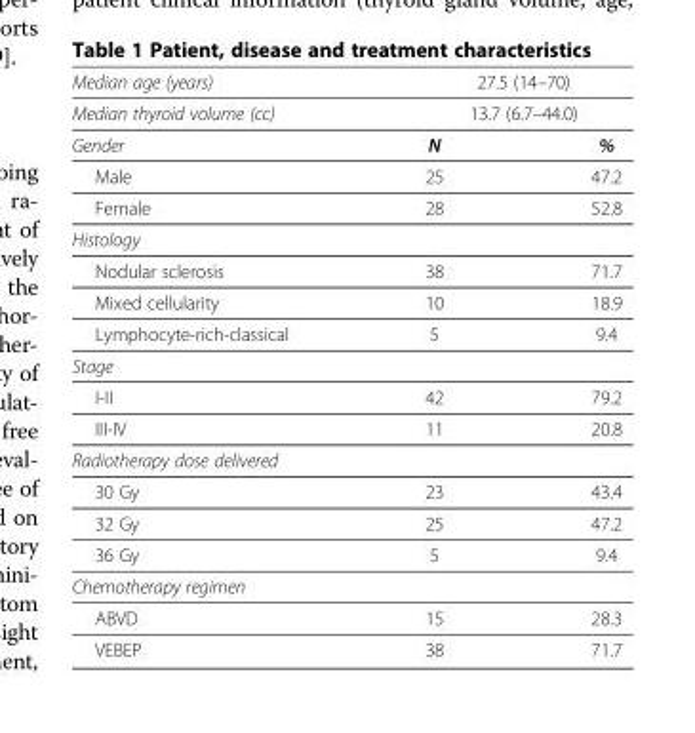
<table><tbody><tr><td>Median age (years)</td><td colspan="2">27.5 (14–70)</td></tr><tr><td>Median thyroid volume (cc)</td><td colspan="2">13.7 (6.7–44.0)</td></tr><tr><td>Gender</td><td>N</td><td>%</td></tr><tr><td>Male</td><td>25</td><td>47.2</td></tr><tr><td>Female</td><td>28</td><td>52.8</td></tr><tr><td colspan="3">Histology</td></tr><tr><td>Nodular sclerosis</td><td>38</td><td>71.7</td></tr><tr><td>Mixed cellularity</td><td>10</td><td>18.9</td></tr><tr><td>Lymphocyte-rich-classical</td><td>5</td><td>9.4</td></tr><tr><td colspan="3">Stage</td></tr><tr><td>I-II</td><td>42</td><td>79.2</td></tr><tr><td>III-IV</td><td>11</td><td>20.8</td></tr><tr><td colspan="3">Radiotherapy dose delivered</td></tr><tr><td>30 Gy</td><td>23</td><td>43.4</td></tr><tr><td>32 Gy</td><td>25</td><td>47.2</td></tr><tr><td>36 Gy</td><td>5</td><td>9.4</td></tr><tr><td colspan="3">Chemotherapy regimen</td></tr><tr><td>ABVD</td><td>15</td><td>28.3</td></tr><tr><td>VEBEP</td><td>38</td><td>71.7</td></tr></tbody></table>